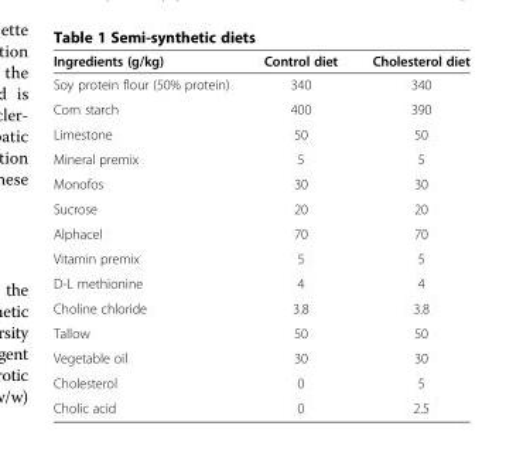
<table><thead><tr><td>Ingredients (g/kg)</td><td>Control diet</td><td>Cholesterol diet</td></tr></thead><tbody><tr><td>Soy protein flour (50% protein)</td><td>340</td><td>340</td></tr><tr><td>Corn starch</td><td>400</td><td>390</td></tr><tr><td>Limestone</td><td>50</td><td>50</td></tr><tr><td>Mineral premix</td><td>5</td><td>5</td></tr><tr><td>Monofos</td><td>30</td><td>30</td></tr><tr><td>Sucrose</td><td>20</td><td>20</td></tr><tr><td>Alphacel</td><td>70</td><td>70</td></tr><tr><td>Vitamin premix</td><td>5</td><td>5</td></tr><tr><td>D-L methionine</td><td>4</td><td>4</td></tr><tr><td>Choline chloride</td><td>3.8</td><td>3.8</td></tr><tr><td>Tallow</td><td>50</td><td>50</td></tr><tr><td>Vegetable oil</td><td>30</td><td>30</td></tr><tr><td>Cholesterol</td><td>0</td><td>5</td></tr><tr><td>Cholic acid</td><td>0</td><td>2.5</td></tr></tbody></table>